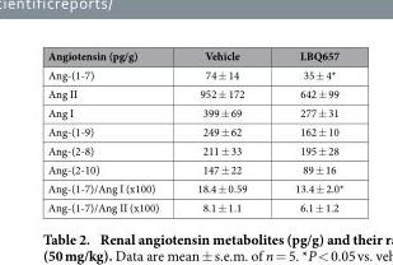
<table><thead><tr><td>Angiotensin (pg/g)</td><td>Vehicle</td><td>LBQ657</td></tr></thead><tbody><tr><td>Ang-(1-7)</td><td>74 ± 14</td><td>35 ± 4*</td></tr><tr><td>Ang II</td><td>952 ± 172</td><td>642 ± 99</td></tr><tr><td>Ang I</td><td>399 ± 69</td><td>277 ± 31</td></tr><tr><td>Ang-(1-9)</td><td>249 ± 62</td><td>162 ± 10</td></tr><tr><td>Ang-(2-8)</td><td>211 ± 33</td><td>195 ± 28</td></tr><tr><td>Ang-(2-10)</td><td>147 ± 22</td><td>89 ± 16</td></tr><tr><td>Ang-(1-7)/Ang I (x100)</td><td>18.4 ± 0.59</td><td>13.4 ± 2.0*</td></tr><tr><td>Ang-(1-7)/Ang II (x100)</td><td>8.1 ± 1.1</td><td>6.1 ± 1.2</td></tr></tbody></table>